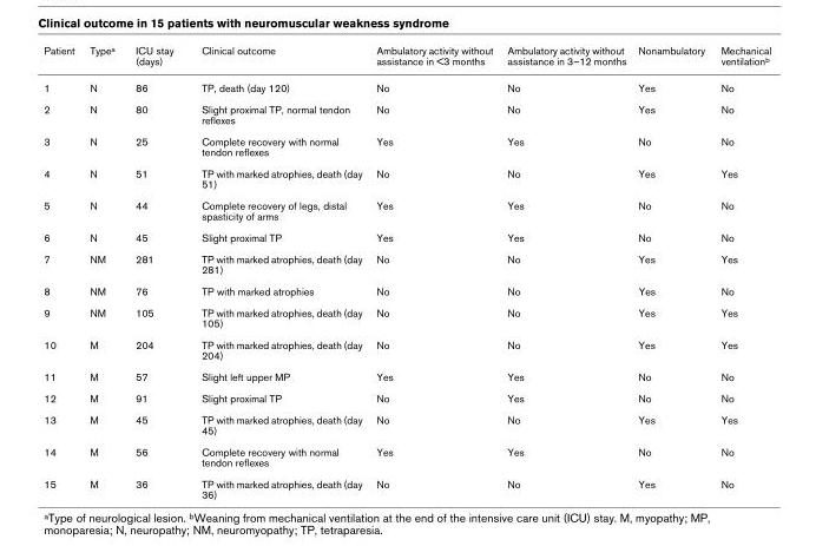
<table><thead><tr><td>Patient</td><td>Typea</td><td>ICU stay (days)</td><td>Clinical outcome</td><td>Ambulatory activity without assistance in &lt;3 months</td><td>Ambulatory activity without assistance in 3–12 months</td><td>Nonambulatory</td><td>Mechanical ventilationb</td></tr></thead><tbody><tr><td>1</td><td>N</td><td>86</td><td>TP, death (day 120)</td><td>No</td><td>No</td><td>Yes</td><td>No</td></tr><tr><td>2</td><td>N</td><td>80</td><td>Slight proximal TP, normal tendon reflexes</td><td>No</td><td>No</td><td>Yes</td><td>No</td></tr><tr><td>3</td><td>N</td><td>25</td><td>Complete recovery with normal tendon reflexes</td><td>Yes</td><td>Yes</td><td>No</td><td>No</td></tr><tr><td>4</td><td>N</td><td>51</td><td>TP with marked atrophies, death (day 51)</td><td>No</td><td>No</td><td>Yes</td><td>Yes</td></tr><tr><td>5</td><td>N</td><td>44</td><td>Complete recovery of legs, distal spasticity of arms</td><td>Yes</td><td>Yes</td><td>No</td><td>No</td></tr><tr><td>6</td><td>N</td><td>45</td><td>Slight proximal TP</td><td>Yes</td><td>Yes</td><td>No</td><td>No</td></tr><tr><td>7</td><td>NM</td><td>281</td><td>TP with marked atrophies, death (day 281)</td><td>No</td><td>No</td><td>Yes</td><td>Yes</td></tr><tr><td>8</td><td>NM</td><td>76</td><td>TP with marked atrophies</td><td>No</td><td>No</td><td>Yes</td><td>No</td></tr><tr><td>9</td><td>NM</td><td>105</td><td>TP with marked atrophies, death (day 105)</td><td>No</td><td>No</td><td>Yes</td><td>Yes</td></tr><tr><td>10</td><td>M</td><td>204</td><td>TP with marked atrophies, death (day 204)</td><td>No</td><td>No</td><td>Yes</td><td>Yes</td></tr><tr><td>11</td><td>M</td><td>57</td><td>Slight left upper MP</td><td>Yes</td><td>Yes</td><td>No</td><td>No</td></tr><tr><td>12</td><td>M</td><td>91</td><td>Slight proximal TP</td><td>No</td><td>Yes</td><td>No</td><td>No</td></tr><tr><td>13</td><td>M</td><td>45</td><td>TP with marked atrophies, death (day 45)</td><td>No</td><td>No</td><td>Yes</td><td>Yes</td></tr><tr><td>14</td><td>M</td><td>56</td><td>Complete recovery with normal tendon reflexes</td><td>Yes</td><td>Yes</td><td>No</td><td>No</td></tr><tr><td>15</td><td>M</td><td>36</td><td>TP with marked atrophies, death (day 36)</td><td>No</td><td>No</td><td>Yes</td><td>No</td></tr></tbody></table>